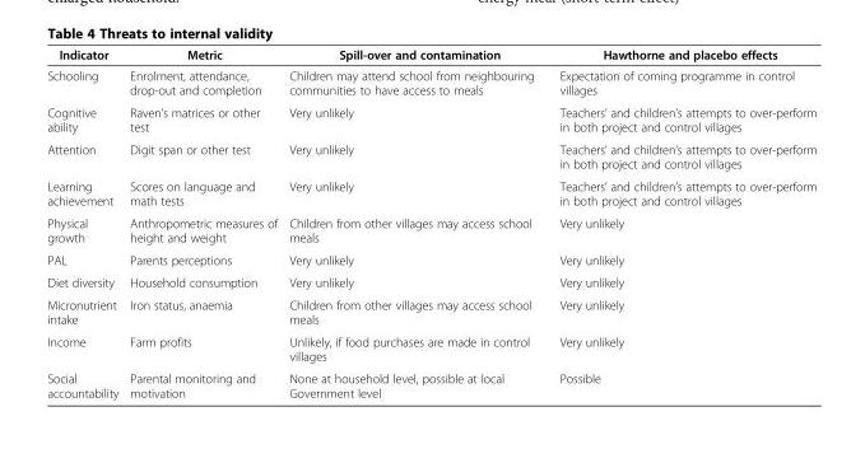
<table><thead><tr><td>Indicator</td><td>Metric</td><td>Spill-over and contamination</td><td>Hawthorne and placebo effects</td></tr></thead><tbody><tr><td>Schooling</td><td>Enrolment, attendance, drop-out and completion</td><td>Children may attend school from neighbouring communities to have access to meals</td><td>Expectation of coming programme in control villages</td></tr><tr><td>Cognitive ability</td><td>Raven’s matrices or other test</td><td>Very unlikely</td><td>Teachers’ and children’s attempts to over-perform in both project and control villages</td></tr><tr><td>Attention</td><td>Digit span or other test</td><td>Very unlikely</td><td>Teachers’ and children’s attempts to over-perform in both project and control villages</td></tr><tr><td>Learning achievement</td><td>Scores on language and math tests</td><td>Very unlikely</td><td>Teachers’ and children’s attempts to over-perform in both project and control villages</td></tr><tr><td>Physical growth</td><td>Anthropometric measures of height and weight</td><td>Children from other villages may access school meals</td><td>Very unlikely</td></tr><tr><td>PAL</td><td>Parents perceptions</td><td>Very unlikely</td><td>Very unlikely</td></tr><tr><td>Diet diversity</td><td>Household consumption</td><td>Very unlikely</td><td>Very unlikely</td></tr><tr><td>Micronutrient intake</td><td>Iron status, anaemia</td><td>Children from other villages may access school meals</td><td>Very unlikely</td></tr><tr><td>Income</td><td>Farm profits</td><td>Unlikely, if food purchases are made in control villages</td><td>Very unlikely</td></tr><tr><td>Social accountability</td><td>Parental monitoring and motivation</td><td>None at household level, possible at local Government level</td><td>Possible</td></tr></tbody></table>